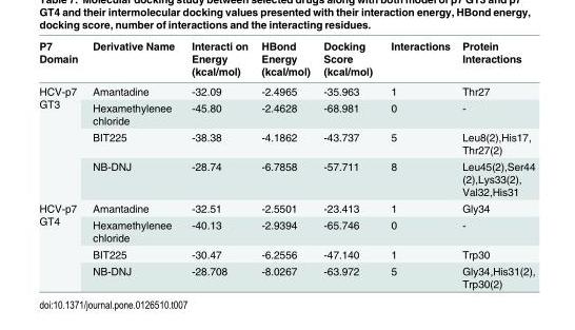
<table><thead><tr><td>P7 Domain</td><td>Derivative Name</td><td>Interacti on Energy (kcal/mol)</td><td>HBond Energy (kcal/mol)</td><td>Docking Score (kcal/mol)</td><td>Interactions</td><td>Protein Interactions</td></tr></thead><tbody><tr><td rowspan="4">HCV-p7 GT3</td><td>Amantadine</td><td>-32.09</td><td>-2.4965</td><td>-35.963</td><td>1</td><td>Thr27</td></tr><tr><td>Hexamethylenee chloride</td><td>-45.80</td><td>-2.4628</td><td>-68.981</td><td>0</td><td>-</td></tr><tr><td>BIT225</td><td>-38.38</td><td>-4.1862</td><td>-43.737</td><td>5</td><td>Leu8(2),His17, Thr27(2)</td></tr><tr><td>NB-DNJ</td><td>-28.74</td><td>-6.7858</td><td>-57.711</td><td>8</td><td>Leu45(2),Ser44 (2),Lys33(2), Val32,His31</td></tr><tr><td rowspan="4">HCV-p7 GT4</td><td>Amantadine</td><td>-32.51</td><td>-2.5501</td><td>-23.413</td><td>1</td><td>Gly34</td></tr><tr><td>Hexamethylenee chloride</td><td>-40.13</td><td>-2.9394</td><td>-65.746</td><td>0</td><td>-</td></tr><tr><td>BIT225</td><td>-30.47</td><td>-6.2556</td><td>-47.140</td><td>1</td><td>Trp30</td></tr><tr><td>NB-DNJ</td><td>-28.708</td><td>-8.0267</td><td>-63.972</td><td>5</td><td>Gly34,His31(2), Trp30(2)</td></tr></tbody></table>